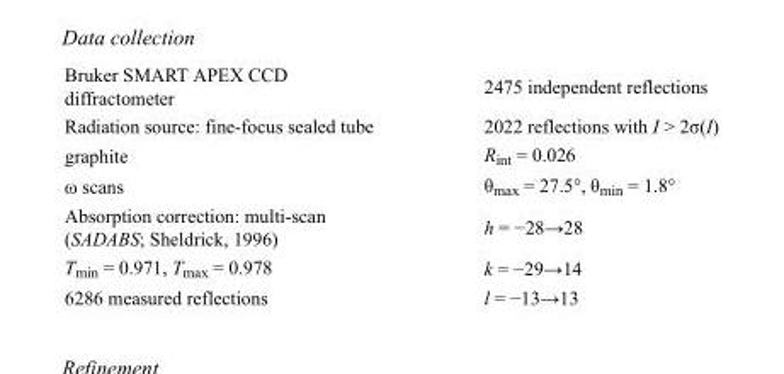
<table><tbody><tr><td>Bruker SMART APEX CCD diffractometer</td><td>2475 independent reflections</td></tr><tr><td>Radiation source: fine-focus sealed tube</td><td>2022 reflections with I &gt; 2σ(I)</td></tr><tr><td>graphite</td><td>R<sub>int</sub> = 0.026</td></tr><tr><td>ω scans</td><td>θ<sub>max</sub> = 27.5°, θ<sub>min</sub> = 1.8°</td></tr><tr><td>Absorption correction: multi-scan (SADABS; Sheldrick, 1996)</td><td>h = −28→28</td></tr><tr><td>T<sub>min</sub> = 0.971, T<sub>max</sub> = 0.978</td><td>k = −29→14</td></tr><tr><td>6286 measured reflections</td><td>l = −13→13</td></tr></tbody></table>